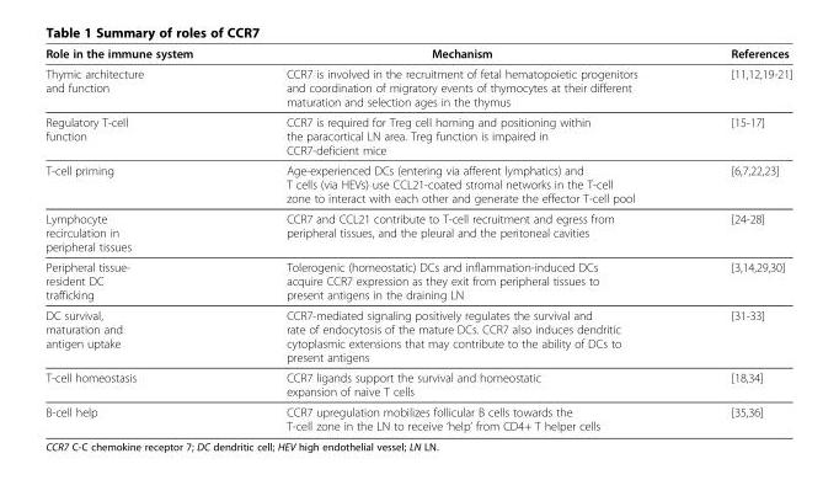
<table><thead><tr><td>Role in the immune system</td><td>Mechanism</td><td>References</td></tr></thead><tbody><tr><td>Thymic architecture and function</td><td>CCR7 is involved in the recruitment of fetal hematopoietic progenitors and coordination of migratory events of thymocytes at their different maturation and selection ages in the thymus</td><td>[11,12,19-21]</td></tr><tr><td>Regulatory T-cell function</td><td>CCR7 is required for Treg cell homing and positioning within the paracortical LN area. Treg function is impaired in CCR7-deficient mice</td><td>[15-17]</td></tr><tr><td>T-cell priming</td><td>Age-experienced DCs (entering via afferent lymphatics) and T cells (via HEVs) use CCL21-coated stromal networks in the T-cell zone to interact with each other and generate the effector T-cell pool</td><td>[6,7,22,23]</td></tr><tr><td>Lymphocyte recirculation in peripheral tissues</td><td>CCR7 and CCL21 contribute to T-cell recruitment and egress from peripheral tissues, and the pleural and the peritoneal cavities</td><td>[24-28]</td></tr><tr><td>Peripheral tissue- resident DC trafficking</td><td>Tolerogenic (homeostatic) DCs and inflammation-induced DCs acquire CCR7 expression as they exit from peripheral tissues to present antigens in the draining LN</td><td>[3,14,29,30]</td></tr><tr><td>DC survival, maturation and antigen uptake</td><td>CCR7-mediated signaling positively regulates the survival and rate of endocytosis of the mature DCs. CCR7 also induces dendritic cytoplasmic extensions that may contribute to the ability of DCs to present antigens</td><td>[31-33]</td></tr><tr><td>T-cell homeostasis</td><td>CCR7 ligands support the survival and homeostatic expansion of naive T cells</td><td>[18,34]</td></tr><tr><td>B-cell help</td><td>CCR7 upregulation mobilizes follicular B cells towards the T-cell zone in the LN to receive ‘help’ from CD4+ T helper cells</td><td>[35,36]</td></tr></tbody></table>